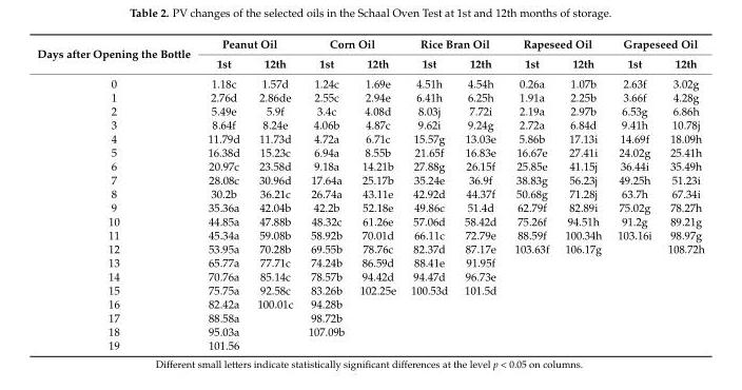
<table><thead><tr><td rowspan="2">Days after Opening the Bottle</td><td colspan="2">Peanut Oil</td><td colspan="2">Corn Oil</td><td colspan="2">Rice Bran Oil</td><td colspan="2">Rapeseed Oil</td><td colspan="2">Grapeseed Oil</td></tr><tr><td>1st</td><td>12th</td><td>1st</td><td>12th</td><td>1st</td><td>12th</td><td>1st</td><td>12th</td><td>1st</td><td>12th</td></tr></thead><tbody><tr><td>0</td><td>1.18c</td><td>1.57d</td><td>1.24c</td><td>1.69e</td><td>4.51h</td><td>4.54h</td><td>0.26a</td><td>1.07b</td><td>2.63f</td><td>3.02g</td></tr><tr><td>1</td><td>2.76d</td><td>2.86de</td><td>2.55c</td><td>2.94e</td><td>6.41h</td><td>6.25h</td><td>1.91a</td><td>2.25b</td><td>3.66f</td><td>4.28g</td></tr><tr><td>2</td><td>5.49e</td><td>5.9f</td><td>3.4c</td><td>4.08d</td><td>8.03j</td><td>7.72i</td><td>2.19a</td><td>2.97b</td><td>6.53g</td><td>6.86h</td></tr><tr><td>3</td><td>8.64f</td><td>8.24e</td><td>4.06b</td><td>4.87c</td><td>9.62i</td><td>9.24g</td><td>2.72a</td><td>6.84d</td><td>9.41h</td><td>10.78j</td></tr><tr><td>4</td><td>11.79d</td><td>11.73d</td><td>4.72a</td><td>6.71c</td><td>15.57g</td><td>13.03e</td><td>5.86b</td><td>17.13i</td><td>14.69f</td><td>18.09h</td></tr><tr><td>5</td><td>16.38d</td><td>15.23c</td><td>6.94a</td><td>8.55b</td><td>21.65f</td><td>16.83e</td><td>16.67e</td><td>27.41i</td><td>24.02g</td><td>25.41h</td></tr><tr><td>6</td><td>20.97c</td><td>23.58d</td><td>9.18a</td><td>14.21b</td><td>27.88g</td><td>26.15f</td><td>25.85e</td><td>41.15j</td><td>36.44i</td><td>35.49h</td></tr><tr><td>7</td><td>28.08c</td><td>30.96d</td><td>17.64a</td><td>25.17b</td><td>35.24e</td><td>36.9f</td><td>38.83g</td><td>56.23j</td><td>49.25h</td><td>51.23i</td></tr><tr><td>8</td><td>30.2b</td><td>36.21c</td><td>26.74a</td><td>43.11e</td><td>42.92d</td><td>44.37f</td><td>50.68g</td><td>71.28j</td><td>63.7h</td><td>67.34i</td></tr><tr><td>9</td><td>35.36a</td><td>42.04b</td><td>42.2b</td><td>52.18e</td><td>49.86c</td><td>51.4d</td><td>62.79f</td><td>82.89i</td><td>75.02g</td><td>78.27h</td></tr><tr><td>10</td><td>44.85a</td><td>47.88b</td><td>48.32c</td><td>61.26e</td><td>57.06d</td><td>58.42d</td><td>75.26f</td><td>94.51h</td><td>91.2g</td><td>89.21g</td></tr><tr><td>11</td><td>45.34a</td><td>59.08b</td><td>58.92b</td><td>70.01d</td><td>66.11c</td><td>72.79e</td><td>88.59f</td><td>100.34h</td><td>103.16i</td><td>98.97g</td></tr><tr><td>12</td><td>53.95a</td><td>70.28b</td><td>69.55b</td><td>78.76c</td><td>82.37d</td><td>87.17e</td><td>103.63f</td><td>106.17g</td><td></td><td>108.72h</td></tr><tr><td>13</td><td>65.77a</td><td>77.71c</td><td>74.24b</td><td>86.59d</td><td>88.41e</td><td>91.95f</td><td></td><td></td><td></td><td></td></tr><tr><td>14</td><td>70.76a</td><td>85.14c</td><td>78.57b</td><td>94.42d</td><td>94.47d</td><td>96.73e</td><td></td><td></td><td></td><td></td></tr><tr><td>15</td><td>75.75a</td><td>92.58c</td><td>83.26b</td><td>102.25e</td><td>100.53d</td><td>101.5d</td><td></td><td></td><td></td><td></td></tr><tr><td>16</td><td>82.42a</td><td>100.01c</td><td>94.28b</td><td></td><td></td><td></td><td></td><td></td><td></td><td></td></tr><tr><td>17</td><td>88.58a</td><td></td><td>98.72b</td><td></td><td></td><td></td><td></td><td></td><td></td><td></td></tr><tr><td>18</td><td>95.03a</td><td></td><td>107.09b</td><td></td><td></td><td></td><td></td><td></td><td></td><td></td></tr><tr><td>19</td><td>101.56</td><td></td><td></td><td></td><td></td><td></td><td></td><td></td><td></td><td></td></tr></tbody></table>